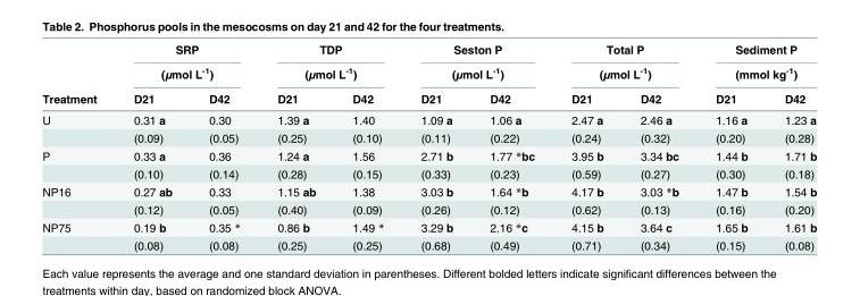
<table><thead><tr><td rowspan="3">Treatment</td><td rowspan="2" colspan="2">SRP (μmol L<sup>-1</sup>)</td><td rowspan="2" colspan="2">TDP (μmol L<sup>-1</sup>)</td><td rowspan="2" colspan="2">Seston P (μmol L<sup>-1</sup>)</td><td rowspan="2" colspan="2">Total P (μmol L<sup>-1</sup>)</td><td rowspan="2" colspan="2">Sediment P (mmol kg<sup>-1</sup>)</td></tr><tr></tr><tr><td>D21</td><td>D42</td><td>D21</td><td>D42</td><td>D21</td><td>D42</td><td>D21</td><td>D42</td><td>D21</td><td>D42</td></tr></thead><tbody><tr><td rowspan="2">U</td><td>0.31 a</td><td>0.30</td><td>1.39 a</td><td>1.40</td><td>1.09 a</td><td>1.06 a</td><td>2.47 a</td><td>2.46 a</td><td>1.16 a</td><td>1.23 a</td></tr><tr><td>(0.09)</td><td>(0.05)</td><td>(0.25)</td><td>(0.10)</td><td>(0.11)</td><td>(0.22)</td><td>(0.24)</td><td>(0.32)</td><td>(0.20)</td><td>(0.28)</td></tr><tr><td rowspan="2">P</td><td>0.33 a</td><td>0.36</td><td>1.24 a</td><td>1.56</td><td>2.71 b</td><td>1.77 *bc</td><td>3.95 b</td><td>3.34 bc</td><td>1.44 b</td><td>1.71 b</td></tr><tr><td>(0.10)</td><td>(0.14)</td><td>(0.28)</td><td>(0.15)</td><td>(0.33)</td><td>(0.23)</td><td>(0.59)</td><td>(0.27)</td><td>(0.30)</td><td>(0.18)</td></tr><tr><td rowspan="2">NP16</td><td>0.27 ab</td><td>0.33</td><td>1.15 ab</td><td>1.38</td><td>3.03 b</td><td>1.64 *b</td><td>4.17 b</td><td>3.03 *b</td><td>1.47 b</td><td>1.54 b</td></tr><tr><td>(0.12)</td><td>(0.05)</td><td>(0.40)</td><td>(0.09)</td><td>(0.26)</td><td>(0.12)</td><td>(0.62)</td><td>(0.13)</td><td>(0.16)</td><td>(0.20)</td></tr><tr><td rowspan="2">NP75</td><td>0.19 b</td><td>0.35 *</td><td>0.86 b</td><td>1.49 *</td><td>3.29 b</td><td>2.16 *c</td><td>4.15 b</td><td>3.64 c</td><td>1.65 b</td><td>1.61 b</td></tr><tr><td>(0.08)</td><td>(0.08)</td><td>(0.25)</td><td>(0.25)</td><td>(0.68)</td><td>(0.49)</td><td>(0.71)</td><td>(0.34)</td><td>(0.15)</td><td>(0.08)</td></tr></tbody></table>